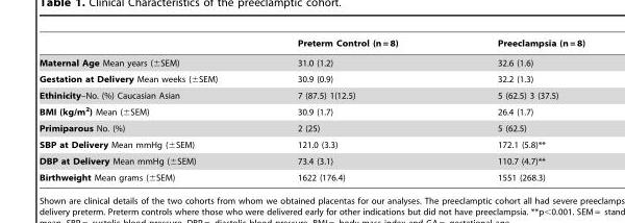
<table><thead><tr><td></td><td>Preterm Control (n = 8)</td><td>Preeclampsia (n = 8)</td></tr></thead><tbody><tr><td>Maternal Age Mean years (±SEM)</td><td>31.0 (1.2)</td><td>32.6 (1.6)</td></tr><tr><td>Gestation at Delivery Mean weeks (±SEM)</td><td>30.9 (0.9)</td><td>32.2 (1.3)</td></tr><tr><td>Ethinicity–No. (%) Caucasian Asian</td><td>7 (87.5) 1(12.5)</td><td>5 (62.5) 3 (37.5)</td></tr><tr><td>BMI (kg/m<sup>2</sup>) Mean (±SEM)</td><td>30.9 (1.7)</td><td>26.4 (1.7)</td></tr><tr><td>Primiparous No. (%)</td><td>2 (25)</td><td>5 (62.5)</td></tr><tr><td>SBP at Delivery Mean mmHg (±SEM)</td><td>121.0 (3.3)</td><td>172.1 (5.8)**</td></tr><tr><td>DBP at Delivery Mean mmHg (±SEM)</td><td>73.4 (3.1)</td><td>110.7 (4.7)**</td></tr><tr><td>Birthweight Mean grams (±SEM)</td><td>1622 (176.4)</td><td>1551 (268.3)</td></tr></tbody></table>